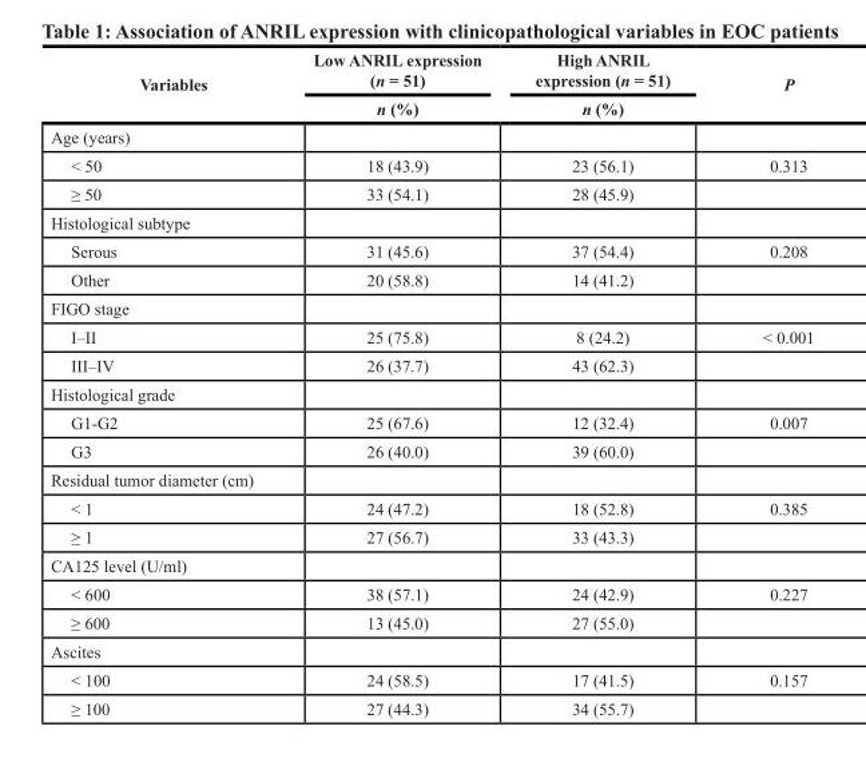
<table><thead><tr><td rowspan="2">Variables</td><td rowspan="2">Low ANRIL expression (n = 51) n (%)</td><td rowspan="2">High ANRIL expression (n = 51) n (%)</td><td rowspan="2">P</td></tr><tr></tr></thead><tbody><tr><td colspan="4">Age (years)</td></tr><tr><td>&lt; 50</td><td>18 (43.9)</td><td>23 (56.1)</td><td>0.313</td></tr><tr><td>≥ 50</td><td>33 (54.1)</td><td>28 (45.9)</td><td></td></tr><tr><td colspan="4">Histological subtype</td></tr><tr><td>Serous</td><td>31 (45.6)</td><td>37 (54.4)</td><td>0.208</td></tr><tr><td>Other</td><td>20 (58.8)</td><td>14 (41.2)</td><td></td></tr><tr><td colspan="4">FIGO stage</td></tr><tr><td>I–II</td><td>25 (75.8)</td><td>8 (24.2)</td><td>&lt; 0.001</td></tr><tr><td>III–IV</td><td>26 (37.7)</td><td>43 (62.3)</td><td></td></tr><tr><td colspan="4">Histological grade</td></tr><tr><td>G1‑G2</td><td>25 (67.6)</td><td>12 (32.4)</td><td>0.007</td></tr><tr><td>G3</td><td>26 (40.0)</td><td>39 (60.0)</td><td></td></tr><tr><td colspan="4">Residual tumor diameter (cm)</td></tr><tr><td>&lt; 1</td><td>24 (47.2)</td><td>18 (52.8)</td><td>0.385</td></tr><tr><td>≥ 1</td><td>27 (56.7)</td><td>33 (43.3)</td><td></td></tr><tr><td colspan="4">CA125 level (U/ml)</td></tr><tr><td>&lt; 600</td><td>38 (57.1)</td><td>24 (42.9)</td><td>0.227</td></tr><tr><td>≥ 600</td><td>13 (45.0)</td><td>27 (55.0)</td><td></td></tr><tr><td colspan="4">Ascites</td></tr><tr><td>&lt; 100</td><td>24 (58.5)</td><td>17 (41.5)</td><td>0.157</td></tr><tr><td>≥ 100</td><td>27 (44.3)</td><td>34 (55.7)</td><td></td></tr></tbody></table>